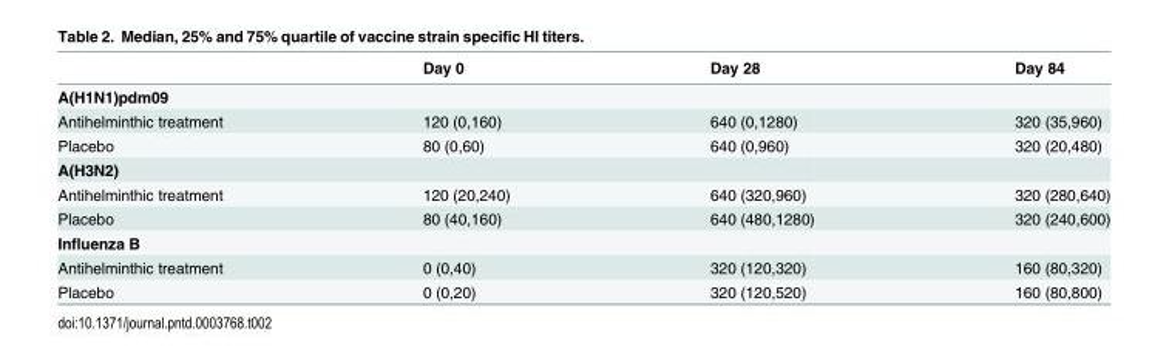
<table><thead><tr><td></td><td>Day 0</td><td>Day 28</td><td>Day 84</td></tr></thead><tbody><tr><td colspan="4">A(H1N1)pdm09</td></tr><tr><td>Antihelminthic treatment</td><td>120 (0,160)</td><td>640 (0,1280)</td><td>320 (35,960)</td></tr><tr><td>Placebo</td><td>80 (0,60)</td><td>640 (0,960)</td><td>320 (20,480)</td></tr><tr><td colspan="4">A(H3N2)</td></tr><tr><td>Antihelminthic treatment</td><td>120 (20,240)</td><td>640 (320,960)</td><td>320 (280,640)</td></tr><tr><td>Placebo</td><td>80 (40,160)</td><td>640 (480,1280)</td><td>320 (240,600)</td></tr><tr><td colspan="4">Influenza B</td></tr><tr><td>Antihelminthic treatment</td><td>0 (0,40)</td><td>320 (120,320)</td><td>160 (80,320)</td></tr><tr><td>Placebo</td><td>0 (0,20)</td><td>320 (120,520)</td><td>160 (80,800)</td></tr></tbody></table>